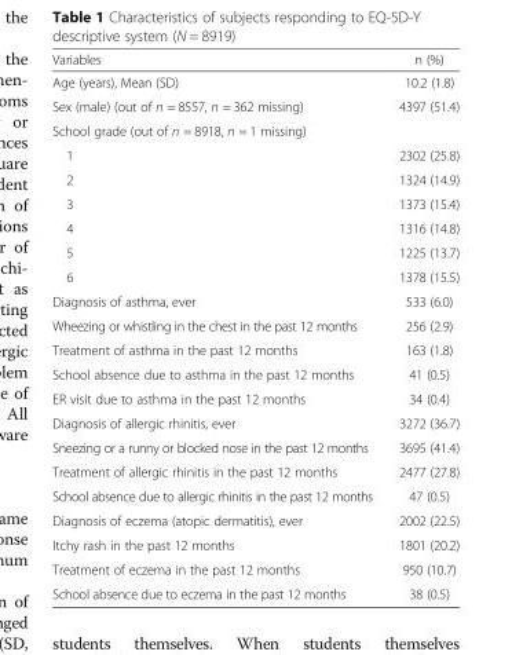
<table><thead><tr><td>Variables</td><td>n (%)</td></tr></thead><tbody><tr><td>Age (years), Mean (SD)</td><td>10.2 (1.8)</td></tr><tr><td>Sex (male) (out of n = 8557, n = 362 missing)</td><td>4397 (51.4)</td></tr><tr><td colspan="2">School grade (out of n = 8918, n = 1 missing)</td></tr><tr><td>1</td><td>2302 (25.8)</td></tr><tr><td>2</td><td>1324 (14.9)</td></tr><tr><td>3</td><td>1373 (15.4)</td></tr><tr><td>4</td><td>1316 (14.8)</td></tr><tr><td>5</td><td>1225 (13.7)</td></tr><tr><td>6</td><td>1378 (15.5)</td></tr><tr><td>Diagnosis of asthma, ever</td><td>533 (6.0)</td></tr><tr><td>Wheezing or whistling in the chest in the past 12 months</td><td>256 (2.9)</td></tr><tr><td>Treatment of asthma in the past 12 months</td><td>163 (1.8)</td></tr><tr><td>School absence due to asthma in the past 12 months</td><td>41 (0.5)</td></tr><tr><td>ER visit due to asthma in the past 12 months</td><td>34 (0.4)</td></tr><tr><td>Diagnosis of allergic rhinitis, ever</td><td>3272 (36.7)</td></tr><tr><td>Sneezing or a runny or blocked nose in the past 12 months</td><td>3695 (41.4)</td></tr><tr><td>Treatment of allergic rhinitis in the past 12 months</td><td>2477 (27.8)</td></tr><tr><td>School absence due to allergic rhinitis in the past 12 months</td><td>47 (0.5)</td></tr><tr><td>Diagnosis of eczema (atopic dermatitis), ever</td><td>2002 (22.5)</td></tr><tr><td>Itchy rash in the past 12 months</td><td>1801 (20.2)</td></tr><tr><td>Treatment of eczema in the past 12 months</td><td>950 (10.7)</td></tr><tr><td>School absence due to eczema in the past 12 months</td><td>38 (0.5)</td></tr></tbody></table>